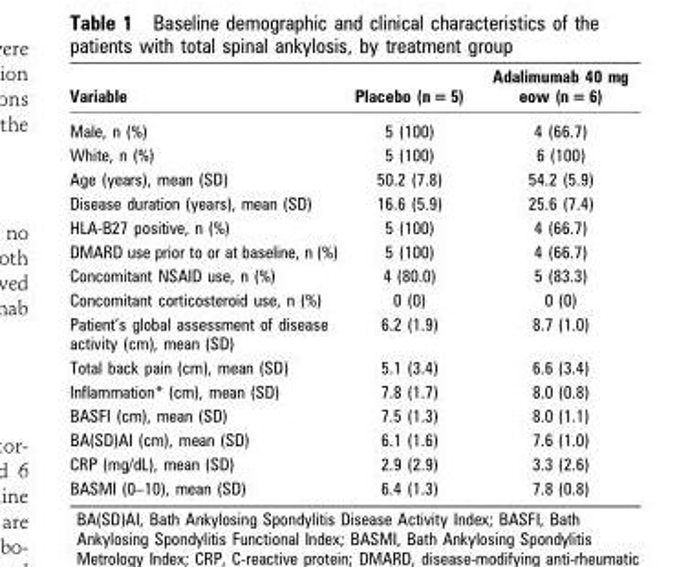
<table><thead><tr><td>Variable</td><td>Placebo (n = 5)</td><td>Adalimumab 40 mg eow (n = 6)</td></tr></thead><tbody><tr><td>Male, n (%)</td><td>5 (100)</td><td>4 (66.7)</td></tr><tr><td>White, n (%)</td><td>5 (100)</td><td>6 (100)</td></tr><tr><td>Age (years), mean (SD)</td><td>50.2 (7.8)</td><td>54.2 (5.9)</td></tr><tr><td>Disease duration (years), mean (SD)</td><td>16.6 (5.9)</td><td>25.6 (7.4)</td></tr><tr><td>HLA-B27 positive, n (%)</td><td>5 (100)</td><td>4 (66.7)</td></tr><tr><td>DMARD use prior to or at baseline, n (%)</td><td>5 (100)</td><td>4 (66.7)</td></tr><tr><td>Concomitant NSAID use, n (%)</td><td>4 (80.0)</td><td>5 (83.3)</td></tr><tr><td>Concomitant corticosteroid use, n (%)</td><td>0 (0)</td><td>0 (0)</td></tr><tr><td>Patient’s global assessment of disease activity (cm), mean (SD)</td><td>6.2 (1.9)</td><td>8.7 (1.0)</td></tr><tr><td>Total back pain (cm), mean (SD)</td><td>5.1 (3.4)</td><td>6.6 (3.4)</td></tr><tr><td>Inflammation* (cm), mean (SD)</td><td>7.8 (1.7)</td><td>8.0 (0.8)</td></tr><tr><td>BASFI (cm), mean (SD)</td><td>7.5 (1.3)</td><td>8.0 (1.1)</td></tr><tr><td>BA(SD)AI (cm), mean (SD)</td><td>6.1 (1.6)</td><td>7.6 (1.0)</td></tr><tr><td>CRP (mg/dL), mean (SD)</td><td>2.9 (2.9)</td><td>3.3 (2.6)</td></tr><tr><td>BASMI (0–10), mean (SD)</td><td>6.4 (1.3)</td><td>7.8 (0.8)</td></tr></tbody></table>